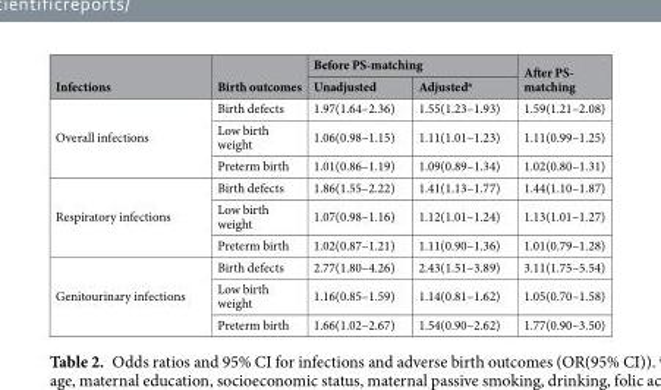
<table><thead><tr><td rowspan="2">Infections</td><td rowspan="2">Birth outcomes</td><td colspan="2">Before PS-matching</td><td rowspan="2">After PS- matching</td></tr><tr><td>Unadjusted</td><td>Adjusted<sup>a</sup></td></tr></thead><tbody><tr><td rowspan="3">Overall infections</td><td>Birth defects</td><td>1.97(1.64–2.36)</td><td>1.55(1.23–1.93)</td><td>1.59(1.21–2.08)</td></tr><tr><td>Low birth weight</td><td>1.06(0.98–1.15)</td><td>1.11(1.01–1.23)</td><td>1.11(0.99–1.25)</td></tr><tr><td>Preterm birth</td><td>1.01(0.86–1.19)</td><td>1.09(0.89–1.34)</td><td>1.02(0.80–1.31)</td></tr><tr><td rowspan="3">Respiratory infections</td><td>Birth defects</td><td>1.86(1.55–2.22)</td><td>1.41(1.13–1.77)</td><td>1.44(1.10–1.87)</td></tr><tr><td>Low birth weight</td><td>1.07(0.98–1.16)</td><td>1.12(1.01–1.24)</td><td>1.13(1.01–1.27)</td></tr><tr><td>Preterm birth</td><td>1.02(0.87–1.21)</td><td>1.11(0.90–1.36)</td><td>1.01(0.79–1.28)</td></tr><tr><td rowspan="3">Genitourinary infections</td><td>Birth defects</td><td>2.77(1.80–4.26)</td><td>2.43(1.51–3.89)</td><td>3.11(1.75–5.54)</td></tr><tr><td>Low birth weight</td><td>1.16(0.85–1.59)</td><td>1.14(0.81–1.62)</td><td>1.05(0.70–1.58)</td></tr><tr><td>Preterm birth</td><td>1.66(1.02–2.67)</td><td>1.54(0.90–2.62)</td><td>1.77(0.90–3.50)</td></tr></tbody></table>